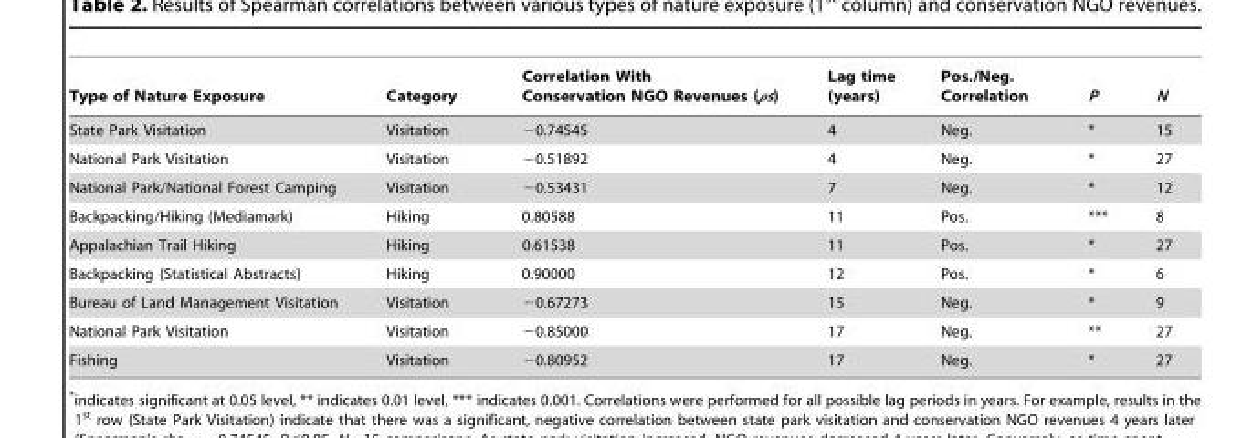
<table><thead><tr><td>Type of Nature Exposure</td><td>Category</td><td>Correlation With Conservation NGO Revenues (ρs)</td><td>Lag time (years)</td><td>Pos./Neg. Correlation</td><td>P</td><td>N</td></tr></thead><tbody><tr><td>State Park Visitation</td><td>Visitation</td><td>−0.74545</td><td>4</td><td>Neg.</td><td>*</td><td>15</td></tr><tr><td>National Park Visitation</td><td>Visitation</td><td>−0.51892</td><td>4</td><td>Neg.</td><td>*</td><td>27</td></tr><tr><td>National Park/National Forest Camping</td><td>Visitation</td><td>−0.53431</td><td>7</td><td>Neg.</td><td>*</td><td>12</td></tr><tr><td>Backpacking/Hiking (Mediamark)</td><td>Hiking</td><td>0.80588</td><td>11</td><td>Pos.</td><td>***</td><td>8</td></tr><tr><td>Appalachian Trail Hiking</td><td>Hiking</td><td>0.61538</td><td>11</td><td>Pos.</td><td>*</td><td>27</td></tr><tr><td>Backpacking (Statistical Abstracts)</td><td>Hiking</td><td>0.90000</td><td>12</td><td>Pos.</td><td>*</td><td>6</td></tr><tr><td>Bureau of Land Management Visitation</td><td>Visitation</td><td>−0.67273</td><td>15</td><td>Neg.</td><td>*</td><td>9</td></tr><tr><td>National Park Visitation</td><td>Visitation</td><td>−0.85000</td><td>17</td><td>Neg.</td><td>**</td><td>27</td></tr><tr><td>Fishing</td><td>Visitation</td><td>−0.80952</td><td>17</td><td>Neg.</td><td>*</td><td>27</td></tr></tbody></table>